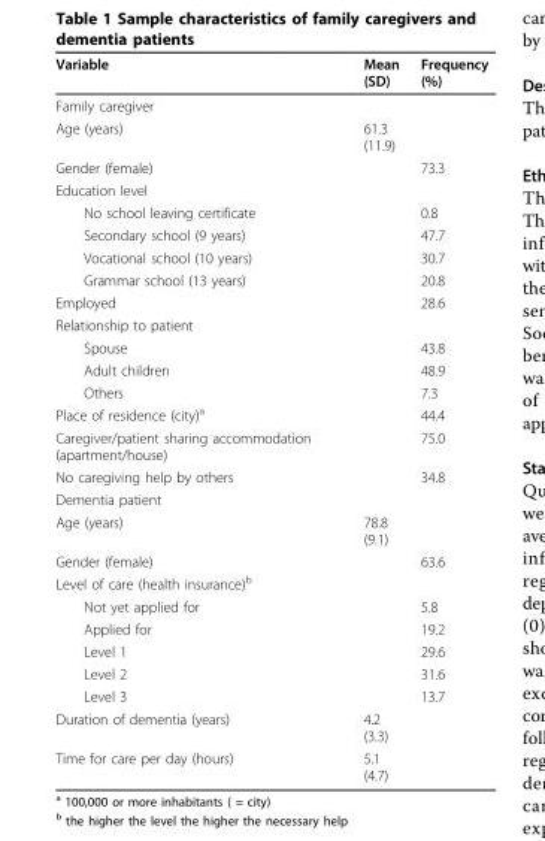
<table><thead><tr><td>Variable</td><td>Mean (SD)</td><td>Frequency (%)</td></tr></thead><tbody><tr><td colspan="3">Family caregiver</td></tr><tr><td>Age (years)</td><td>61.3 (11.9)</td><td></td></tr><tr><td>Gender (female)</td><td></td><td>73.3</td></tr><tr><td colspan="3">Education level</td></tr><tr><td>No school leaving certificate</td><td></td><td>0.8</td></tr><tr><td>Secondary school (9 years)</td><td></td><td>47.7</td></tr><tr><td>Vocational school (10 years)</td><td></td><td>30.7</td></tr><tr><td>Grammar school (13 years)</td><td></td><td>20.8</td></tr><tr><td>Employed</td><td></td><td>28.6</td></tr><tr><td colspan="3">Relationship to patient</td></tr><tr><td>Spouse</td><td></td><td>43.8</td></tr><tr><td>Adult children</td><td></td><td>48.9</td></tr><tr><td>Others</td><td></td><td>7.3</td></tr><tr><td>Place of residence (city)<sup>a</sup></td><td></td><td>44.4</td></tr><tr><td>Caregiver/patient sharing accommodation (apartment/house)</td><td></td><td>75.0</td></tr><tr><td>No caregiving help by others</td><td></td><td>34.8</td></tr><tr><td colspan="3">Dementia patient</td></tr><tr><td>Age (years)</td><td>78.8 (9.1)</td><td></td></tr><tr><td>Gender (female)</td><td></td><td>63.6</td></tr><tr><td colspan="3">Level of care (health insurance)<sup>b</sup></td></tr><tr><td>Not yet applied for</td><td></td><td>5.8</td></tr><tr><td>Applied for</td><td></td><td>19.2</td></tr><tr><td>Level 1</td><td></td><td>29.6</td></tr><tr><td>Level 2</td><td></td><td>31.6</td></tr><tr><td>Level 3</td><td></td><td>13.7</td></tr><tr><td>Duration of dementia (years)</td><td>4.2 (3.3)</td><td></td></tr><tr><td>Time for care per day (hours)</td><td>5.1 (4.7)</td><td></td></tr></tbody></table>